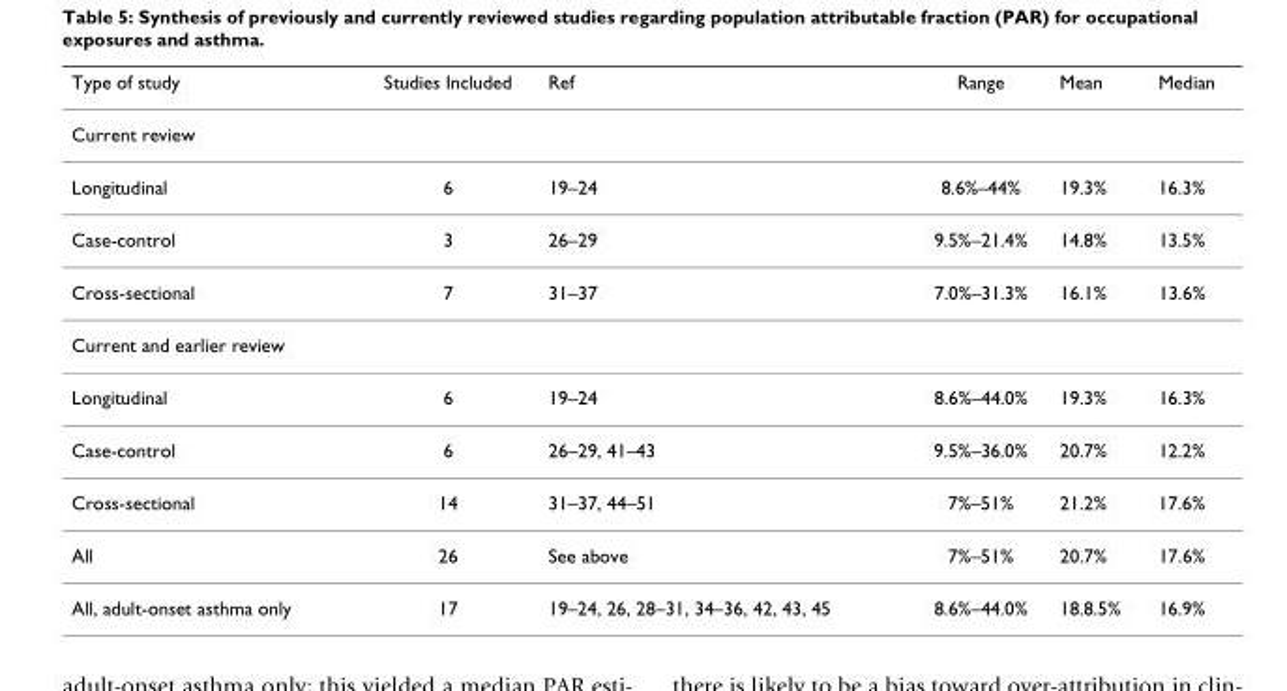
<table><thead><tr><td>Type of study</td><td>Studies Included</td><td>Ref</td><td>Range</td><td>Mean</td><td>Median</td></tr></thead><tbody><tr><td colspan="6">Current review</td></tr><tr><td>Longitudinal</td><td>6</td><td>19–24</td><td>8.6%–44%</td><td>19.3%</td><td>16.3%</td></tr><tr><td>Case-control</td><td>3</td><td>26–29</td><td>9.5%–21.4%</td><td>14.8%</td><td>13.5%</td></tr><tr><td>Cross-sectional</td><td>7</td><td>31–37</td><td>7.0%–31.3%</td><td>16.1%</td><td>13.6%</td></tr><tr><td colspan="6">Current and earlier review</td></tr><tr><td>Longitudinal</td><td>6</td><td>19–24</td><td>8.6%–44.0%</td><td>19.3%</td><td>16.3%</td></tr><tr><td>Case-control</td><td>6</td><td>26–29, 41–43</td><td>9.5%–36.0%</td><td>20.7%</td><td>12.2%</td></tr><tr><td>Cross-sectional</td><td>14</td><td>31–37, 44–51</td><td>7%–51%</td><td>21.2%</td><td>17.6%</td></tr><tr><td>All</td><td>26</td><td>See above</td><td>7%–51%</td><td>20.7%</td><td>17.6%</td></tr><tr><td>All, adult-onset asthma only</td><td>17</td><td>19–24, 26, 28–31, 34–36, 42, 43, 45</td><td>8.6%–44.0%</td><td>18.8.5%</td><td>16.9%</td></tr></tbody></table>